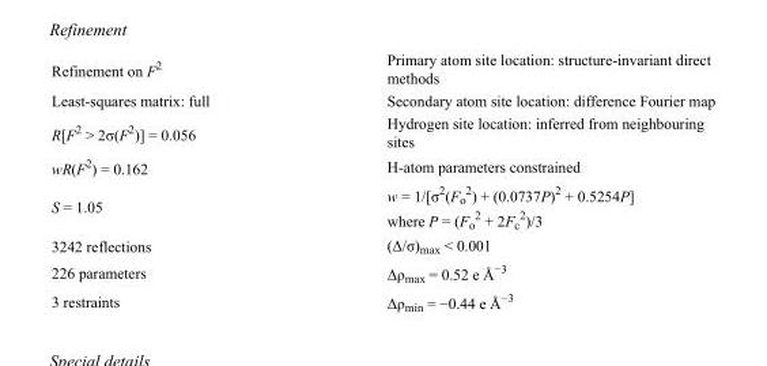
<table><tbody><tr><td>Refinement on F<sup>2</sup></td><td>Primary atom site location: structure-invariant direct methods</td></tr><tr><td>Least-squares matrix: full</td><td>Secondary atom site location: difference Fourier map</td></tr><tr><td>R[F<sup>2</sup> &gt; 2σ(F<sup>2</sup>)] = 0.056</td><td>Hydrogen site location: inferred from neighbouring sites</td></tr><tr><td>wR(F<sup>2</sup>) = 0.162</td><td>H-atom parameters constrained</td></tr><tr><td>S = 1.05</td><td>w = 1/[σ<sup>2</sup>(F<sub>o</sub> <sup>2</sup>) + (0.0737P)<sup>2</sup> + 0.5254P] where P = (F<sub>o</sub> <sup>2</sup> + 2F<sub>c</sub> <sup>2</sup>)/3</td></tr><tr><td>3242 reflections</td><td>(Δ/σ)<sub>max</sub> &lt; 0.001</td></tr><tr><td>226 parameters</td><td>Δρ<sub>max</sub> = 0.52 e Å<sup>−3</sup></td></tr><tr><td>3 restraints</td><td>Δρ<sub>min</sub> = −0.44 e Å<sup>−3</sup></td></tr></tbody></table>